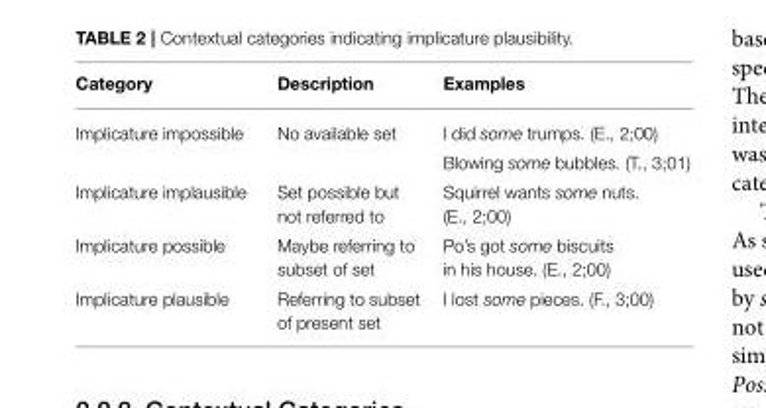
<table><thead><tr><td>Category</td><td>Description</td><td>Examples</td></tr></thead><tbody><tr><td rowspan="2">Implicature impossible</td><td>No available set</td><td>I did some trumps. (E., 2;00)</td></tr><tr><td></td><td>Blowing some bubbles. (T., 3;01)</td></tr><tr><td>Implicature implausible</td><td>Set possible but not referred to</td><td>Squirrel wants some nuts. (E., 2;00)</td></tr><tr><td>Implicature possible</td><td>Maybe referring to subset of set</td><td>Po’s got some biscuits in his house. (E., 2;00)</td></tr><tr><td>Implicature plausible</td><td>Referring to subset of present set</td><td>I lost some pieces. (F., 3;00)</td></tr></tbody></table>